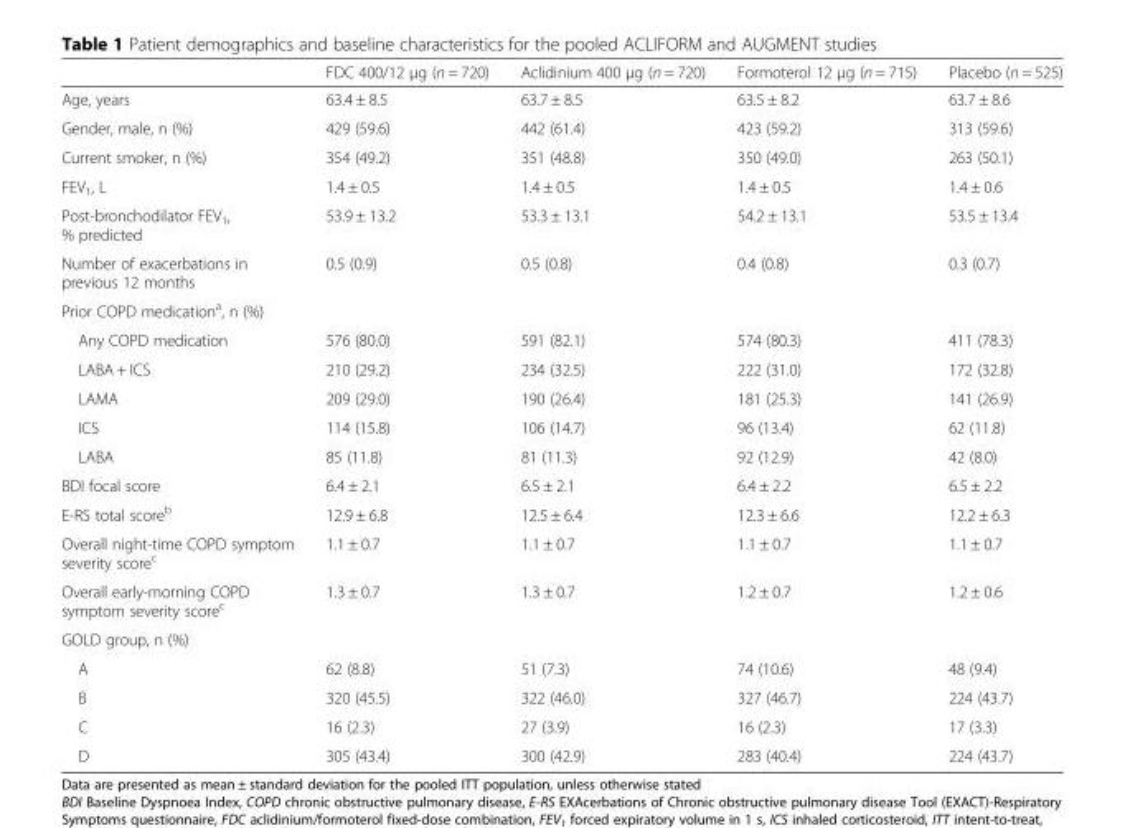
<table><thead><tr><td></td><td>FDC 400/12 μg (n = 720)</td><td>Aclidinium 400 μg (n = 720)</td><td>Formoterol 12 μg (n = 715)</td><td>Placebo (n = 525)</td></tr></thead><tbody><tr><td>Age, years</td><td>63.4 ± 8.5</td><td>63.7 ± 8.5</td><td>63.5 ± 8.2</td><td>63.7 ± 8.6</td></tr><tr><td>Gender, male, n (%)</td><td>429 (59.6)</td><td>442 (61.4)</td><td>423 (59.2)</td><td>313 (59.6)</td></tr><tr><td>Current smoker, n (%)</td><td>354 (49.2)</td><td>351 (48.8)</td><td>350 (49.0)</td><td>263 (50.1)</td></tr><tr><td>FEV<sub>1</sub>, L</td><td>1.4 ± 0.5</td><td>1.4 ± 0.5</td><td>1.4 ± 0.5</td><td>1.4 ± 0.6</td></tr><tr><td>Post-bronchodilator FEV<sub>1</sub>, % predicted</td><td>53.9 ± 13.2</td><td>53.3 ± 13.1</td><td>54.2 ± 13.1</td><td>53.5 ± 13.4</td></tr><tr><td>Number of exacerbations in previous 12 months</td><td>0.5 (0.9)</td><td>0.5 (0.8)</td><td>0.4 (0.8)</td><td>0.3 (0.7)</td></tr><tr><td colspan="5">Prior COPD medication<sup>a</sup>, n (%)</td></tr><tr><td>Any COPD medication</td><td>576 (80.0)</td><td>591 (82.1)</td><td>574 (80.3)</td><td>411 (78.3)</td></tr><tr><td>LABA + ICS</td><td>210 (29.2)</td><td>234 (32.5)</td><td>222 (31.0)</td><td>172 (32.8)</td></tr><tr><td>LAMA</td><td>209 (29.0)</td><td>190 (26.4)</td><td>181 (25.3)</td><td>141 (26.9)</td></tr><tr><td>ICS</td><td>114 (15.8)</td><td>106 (14.7)</td><td>96 (13.4)</td><td>62 (11.8)</td></tr><tr><td>LABA</td><td>85 (11.8)</td><td>81 (11.3)</td><td>92 (12.9)</td><td>42 (8.0)</td></tr><tr><td>BDI focal score</td><td>6.4 ± 2.1</td><td>6.5 ± 2.1</td><td>6.4 ± 2.2</td><td>6.5 ± 2.2</td></tr><tr><td>E-RS total score<sup>b</sup></td><td>12.9 ± 6.8</td><td>12.5 ± 6.4</td><td>12.3 ± 6.6</td><td>12.2 ± 6.3</td></tr><tr><td>Overall night-time COPD symptom severity score<sup>c</sup></td><td>1.1 ± 0.7</td><td>1.1 ± 0.7</td><td>1.1 ± 0.7</td><td>1.1 ± 0.7</td></tr><tr><td>Overall early-morning COPD symptom severity score<sup>c</sup></td><td>1.3 ± 0.7</td><td>1.3 ± 0.7</td><td>1.2 ± 0.7</td><td>1.2 ± 0.6</td></tr><tr><td colspan="5">GOLD group, n (%)</td></tr><tr><td>A</td><td>62 (8.8)</td><td>51 (7.3)</td><td>74 (10.6)</td><td>48 (9.4)</td></tr><tr><td>B</td><td>320 (45.5)</td><td>322 (46.0)</td><td>327 (46.7)</td><td>224 (43.7)</td></tr><tr><td>C</td><td>16 (2.3)</td><td>27 (3.9)</td><td>16 (2.3)</td><td>17 (3.3)</td></tr><tr><td>D</td><td>305 (43.4)</td><td>300 (42.9)</td><td>283 (40.4)</td><td>224 (43.7)</td></tr></tbody></table>